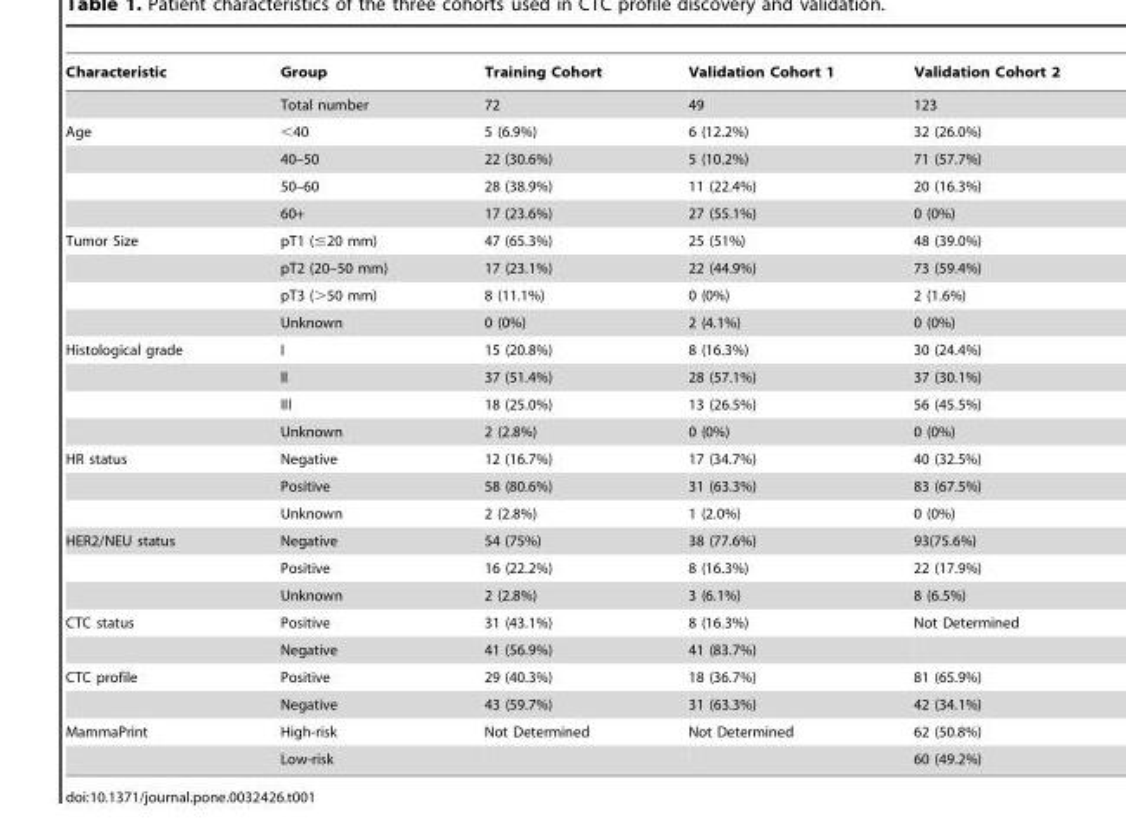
<table><thead><tr><td>Characteristic</td><td>Group</td><td>Training Cohort</td><td>Validation Cohort 1</td><td>Validation Cohort 2</td></tr></thead><tbody><tr><td></td><td>Total number</td><td>72</td><td>49</td><td>123</td></tr><tr><td rowspan="4">Age</td><td>&lt;40</td><td>5 (6.9%)</td><td>6 (12.2%)</td><td>32 (26.0%)</td></tr><tr><td>40–50</td><td>22 (30.6%)</td><td>5 (10.2%)</td><td>71 (57.7%)</td></tr><tr><td>50–60</td><td>28 (38.9%)</td><td>11 (22.4%)</td><td>20 (16.3%)</td></tr><tr><td>60+</td><td>17 (23.6%)</td><td>27 (55.1%)</td><td>0 (0%)</td></tr><tr><td rowspan="4">Tumor Size</td><td>pT1 (≤20 mm)</td><td>47 (65.3%)</td><td>25 (51%)</td><td>48 (39.0%)</td></tr><tr><td>pT2 (20–50 mm)</td><td>17 (23.1%)</td><td>22 (44.9%)</td><td>73 (59.4%)</td></tr><tr><td>pT3 (&gt;50 mm)</td><td>8 (11.1%)</td><td>0 (0%)</td><td>2 (1.6%)</td></tr><tr><td>Unknown</td><td>0 (0%)</td><td>2 (4.1%)</td><td>0 (0%)</td></tr><tr><td rowspan="4">Histological grade</td><td>I</td><td>15 (20.8%)</td><td>8 (16.3%)</td><td>30 (24.4%)</td></tr><tr><td>II</td><td>37 (51.4%)</td><td>28 (57.1%)</td><td>37 (30.1%)</td></tr><tr><td>III</td><td>18 (25.0%)</td><td>13 (26.5%)</td><td>56 (45.5%)</td></tr><tr><td>Unknown</td><td>2 (2.8%)</td><td>0 (0%)</td><td>0 (0%)</td></tr><tr><td rowspan="3">HR status</td><td>Negative</td><td>12 (16.7%)</td><td>17 (34.7%)</td><td>40 (32.5%)</td></tr><tr><td>Positive</td><td>58 (80.6%)</td><td>31 (63.3%)</td><td>83 (67.5%)</td></tr><tr><td>Unknown</td><td>2 (2.8%)</td><td>1 (2.0%)</td><td>0 (0%)</td></tr><tr><td rowspan="3">HER2/NEU status</td><td>Negative</td><td>54 (75%)</td><td>38 (77.6%)</td><td>93(75.6%)</td></tr><tr><td>Positive</td><td>16 (22.2%)</td><td>8 (16.3%)</td><td>22 (17.9%)</td></tr><tr><td>Unknown</td><td>2 (2.8%)</td><td>3 (6.1%)</td><td>8 (6.5%)</td></tr><tr><td rowspan="2">CTC status</td><td>Positive</td><td>31 (43.1%)</td><td>8 (16.3%)</td><td>Not Determined</td></tr><tr><td>Negative</td><td>41 (56.9%)</td><td>41 (83.7%)</td><td></td></tr><tr><td rowspan="2">CTC profile</td><td>Positive</td><td>29 (40.3%)</td><td>18 (36.7%)</td><td>81 (65.9%)</td></tr><tr><td>Negative</td><td>43 (59.7%)</td><td>31 (63.3%)</td><td>42 (34.1%)</td></tr><tr><td rowspan="2">MammaPrint</td><td>High-risk</td><td>Not Determined</td><td>Not Determined</td><td>62 (50.8%)</td></tr><tr><td>Low-risk</td><td></td><td></td><td>60 (49.2%)</td></tr></tbody></table>